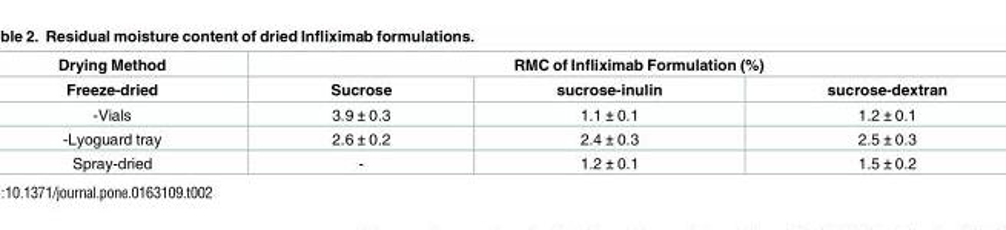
<table><thead><tr><td rowspan="2">Drying Method Freeze-dried</td><td colspan="3">RMC of Infliximab Formulation (%)</td></tr><tr><td>Sucrose</td><td>sucrose-inulin</td><td>sucrose-dextran</td></tr></thead><tbody><tr><td>-Vials</td><td>3.9 ± 0.3</td><td>1.1 ± 0.1</td><td>1.2 ± 0.1</td></tr><tr><td>-Lyoguard tray</td><td>2.6 ± 0.2</td><td>2.4 ± 0.3</td><td>2.5 ± 0.3</td></tr><tr><td>Spray-dried</td><td>-</td><td>1.2 ± 0.1</td><td>1.5 ± 0.2</td></tr></tbody></table>